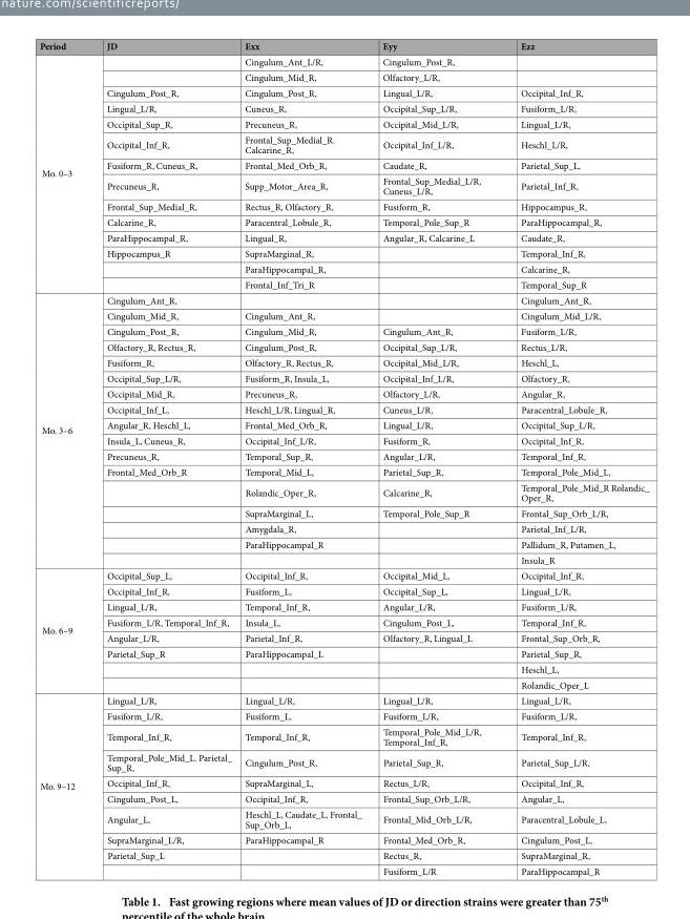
<table><thead><tr><td>Period</td><td>JD</td><td>Exx</td><td>Eyy</td><td>Ezz</td></tr></thead><tbody><tr><td rowspan="14">Mo. 0–3</td><td></td><td>Cingulum_Ant_L/R,</td><td>Cingulum_Post_R,</td><td></td></tr><tr><td></td><td>Cingulum_Mid_R,</td><td>Olfactory_L/R,</td><td></td></tr><tr><td>Cingulum_Post_R,</td><td>Cingulum_Post_R,</td><td>Lingual_L/R,</td><td>Occipital_Inf_R,</td></tr><tr><td>Lingual_L/R,</td><td>Cuneus_R,</td><td>Occipital_Sup_L/R,</td><td>Fusiform_L/R,</td></tr><tr><td>Occipital_Sup_R,</td><td>Precuneus_R,</td><td>Occipital_Mid_L/R,</td><td>Lingual_L/R,</td></tr><tr><td>Occipital_Inf_R,</td><td>Frontal_Sup_Medial_R. Calcarine_R,</td><td>Occipital_Inf_L/R,</td><td>Heschl_L/R,</td></tr><tr><td>Fusiform_R, Cuneus_R,</td><td>Frontal_Med_Orb_R,</td><td>Caudate_R,</td><td>Parietal_Sup_L,</td></tr><tr><td>Precuneus_R,</td><td>Supp_Motor_Area_R,</td><td>Frontal_Sup_Medial_L/R, Cuneus_L/R,</td><td>Parietal_Inf_R,</td></tr><tr><td>Frontal_Sup_Medial_R,</td><td>Rectus_R, Olfactory_R,</td><td>Fusiform_R,</td><td>Hippocampus_R,</td></tr><tr><td>Calcarine_R,</td><td>Paracentral_Lobule_R,</td><td>Temporal_Pole_Sup_R</td><td>ParaHippocampal_R,</td></tr><tr><td>ParaHippocampal_R,</td><td>Lingual_R,</td><td>Angular_R, Calcarine_L</td><td>Caudate_R,</td></tr><tr><td>Hippocampus_R</td><td>SupraMarginal_R,</td><td></td><td>Temporal_Inf_R,</td></tr><tr><td></td><td>ParaHippocampal_R,</td><td></td><td>Calcarine_R,</td></tr><tr><td></td><td>Frontal_Inf_Tri_R</td><td></td><td>Temporal_Sup_R</td></tr><tr><td rowspan="17">Mo. 3–6</td><td>Cingulum_Ant_R,</td><td></td><td></td><td>Cingulum_Ant_R,</td></tr><tr><td>Cingulum_Mid_R,</td><td>Cingulum_Ant_R,</td><td></td><td>Cingulum_Mid_L/R,</td></tr><tr><td>Cingulum_Post_R,</td><td>Cingulum_Mid_R,</td><td>Cingulum_Ant_R,</td><td>Fusiform_L/R,</td></tr><tr><td>Olfactory_R, Rectus_R,</td><td>Cingulum_Post_R,</td><td>Occipital_Sup_L/R,</td><td>Rectus_L/R,</td></tr><tr><td>Fusiform_R,</td><td>Olfactory_R, Rectus_R,</td><td>Occipital_Mid_L/R,</td><td>Heschl_L,</td></tr><tr><td>Occipital_Sup_L/R,</td><td>Fusiform_R, Insula_L,</td><td>Occipital_Inf_L/R,</td><td>Olfactory_R,</td></tr><tr><td>Occipital_Mid_R,</td><td>Precuneus_R,</td><td>Olfactory_L/R,</td><td>Angular_R,</td></tr><tr><td>Occipital_Inf_L,</td><td>Heschl_L/R, Lingual_R,</td><td>Cuneus_L/R,</td><td>Paracentral_Lobule_R,</td></tr><tr><td>Angular_R, Heschl_L,</td><td>Frontal_Med_Orb_R,</td><td>Lingual_L/R,</td><td>Occipital_Sup_L/R,</td></tr><tr><td>Insula_L, Cuneus_R,</td><td>Occipital_Inf_L/R,</td><td>Fusiform_R,</td><td>Occipital_Inf_R,</td></tr><tr><td>Precuneus_R,</td><td>Temporal_Sup_R,</td><td>Angular_L/R,</td><td>Temporal_Inf_R,</td></tr><tr><td>Frontal_Med_Orb_R</td><td>Temporal_Mid_L,</td><td>Parietal_Sup_R,</td><td>Temporal_Pole_Mid_L,</td></tr><tr><td></td><td>Rolandic_Oper_R,</td><td>Calcarine_R,</td><td>Temporal_Pole_Mid_R Rolandic_ Oper_R,</td></tr><tr><td></td><td>SupraMarginal_L,</td><td>Temporal_Pole_Sup_R</td><td>Frontal_Sup_Orb_L/R,</td></tr><tr><td></td><td>Amygdala_R,</td><td></td><td>Parietal_Inf_L/R,</td></tr><tr><td></td><td>ParaHippocampal_R</td><td></td><td>Pallidum_R, Putamen_L,</td></tr><tr><td></td><td></td><td></td><td>Insula_R</td></tr><tr><td rowspan="8">Mo. 6–9</td><td>Occipital_Sup_L,</td><td>Occipital_Inf_R,</td><td>Occipital_Mid_L,</td><td>Occipital_Inf_R,</td></tr><tr><td>Occipital_Inf_R,</td><td>Fusiform_L,</td><td>Occipital_Sup_L,</td><td>Lingual_L/R,</td></tr><tr><td>Lingual_L/R,</td><td>Temporal_Inf_R,</td><td>Angular_L/R,</td><td>Fusiform_L/R,</td></tr><tr><td>Fusiform_L/R, Temporal_Inf_R,</td><td>Insula_L,</td><td>Cingulum_Post_L,</td><td>Temporal_Inf_R,</td></tr><tr><td>Angular_L/R,</td><td>Parietal_Inf_R,</td><td>Olfactory_R, Lingual_L</td><td>Frontal_Sup_Orb_R,</td></tr><tr><td>Parietal_Sup_R</td><td>ParaHippocampal_L</td><td></td><td>Parietal_Sup_R,</td></tr><tr><td></td><td></td><td></td><td>Heschl_L,</td></tr><tr><td></td><td></td><td></td><td>Rolandic_Oper_L</td></tr><tr><td rowspan="10">Mo. 9–12</td><td>Lingual_L/R,</td><td>Lingual_L/R,</td><td>Lingual_L/R,</td><td>Lingual_L/R,</td></tr><tr><td>Fusiform_L/R,</td><td>Fusiform_L,</td><td>Fusiform_L/R,</td><td>Fusiform_L/R,</td></tr><tr><td>Temporal_Inf_R,</td><td>Temporal_Inf_R,</td><td>Temporal_Pole_Mid_L/R, Temporal_Inf_R,</td><td>Temporal_Inf_R,</td></tr><tr><td>Temporal_Pole_Mid_L. Parietal_ Sup_R,</td><td>Cingulum_Post_R,</td><td>Parietal_Sup_R,</td><td>Parietal_Sup_L/R,</td></tr><tr><td>Occipital_Inf_R,</td><td>SupraMarginal_L,</td><td>Rectus_L/R,</td><td>Occipital_Inf_R,</td></tr><tr><td>Cingulum_Post_L,</td><td>Occipital_Inf_R,</td><td>Frontal_Sup_Orb_L/R,</td><td>Angular_L,</td></tr><tr><td>Angular_L,</td><td>Heschl_L, Caudate_L, Frontal_ Sup_Orb_L,</td><td>Frontal_Mid_Orb_L/R,</td><td>Paracentral_Lobule_L,</td></tr><tr><td>SupraMarginal_L/R,</td><td>ParaHippocampal_R</td><td>Frontal_Med_Orb_R,</td><td>Cingulum_Post_L,</td></tr><tr><td>Parietal_Sup_L</td><td></td><td>Rectus_R,</td><td>SupraMarginal_R,</td></tr><tr><td></td><td></td><td>Fusiform_L/R</td><td>ParaHippocampal_R</td></tr></tbody></table>